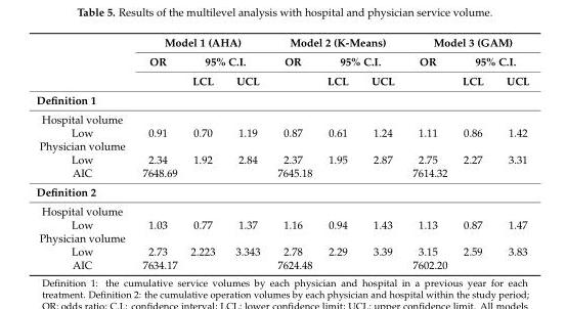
<table><thead><tr><td rowspan="3"></td><td colspan="3">Model 1 (AHA)</td><td colspan="3">Model 2 (K-Means)</td><td colspan="3">Model 3 (GAM)</td></tr><tr><td rowspan="2">OR</td><td colspan="2">95% C.I.</td><td rowspan="2">OR</td><td colspan="2">95% C.I.</td><td rowspan="2">OR</td><td colspan="2">95% C.I.</td></tr><tr><td>LCL</td><td>UCL</td><td>LCL</td><td>UCL</td><td>LCL</td><td>UCL</td></tr></thead><tbody><tr><td colspan="10">Definition 1</td></tr><tr><td colspan="10">Hospital volume</td></tr><tr><td>Low</td><td>0.91</td><td>0.70</td><td>1.19</td><td>0.87</td><td>0.61</td><td>1.24</td><td>1.11</td><td>0.86</td><td>1.42</td></tr><tr><td colspan="10">Physician volume</td></tr><tr><td>Low</td><td>2.34</td><td>1.92</td><td>2.84</td><td>2.37</td><td>1.95</td><td>2.87</td><td>2.75</td><td>2.27</td><td>3.31</td></tr><tr><td>AIC</td><td>7648.69</td><td></td><td></td><td>7645.18</td><td></td><td></td><td>7614.32</td><td></td><td></td></tr><tr><td colspan="10">Definition 2</td></tr><tr><td colspan="10">Hospital volume</td></tr><tr><td>Low</td><td>1.03</td><td>0.77</td><td>1.37</td><td>1.16</td><td>0.94</td><td>1.43</td><td>1.13</td><td>0.87</td><td>1.47</td></tr><tr><td colspan="10">Physician volume</td></tr><tr><td>Low</td><td>2.73</td><td>2.223</td><td>3.343</td><td>2.78</td><td>2.29</td><td>3.39</td><td>3.15</td><td>2.59</td><td>3.83</td></tr><tr><td>AIC</td><td>7634.17</td><td></td><td></td><td>7624.48</td><td></td><td></td><td>7602.20</td><td></td><td></td></tr></tbody></table>